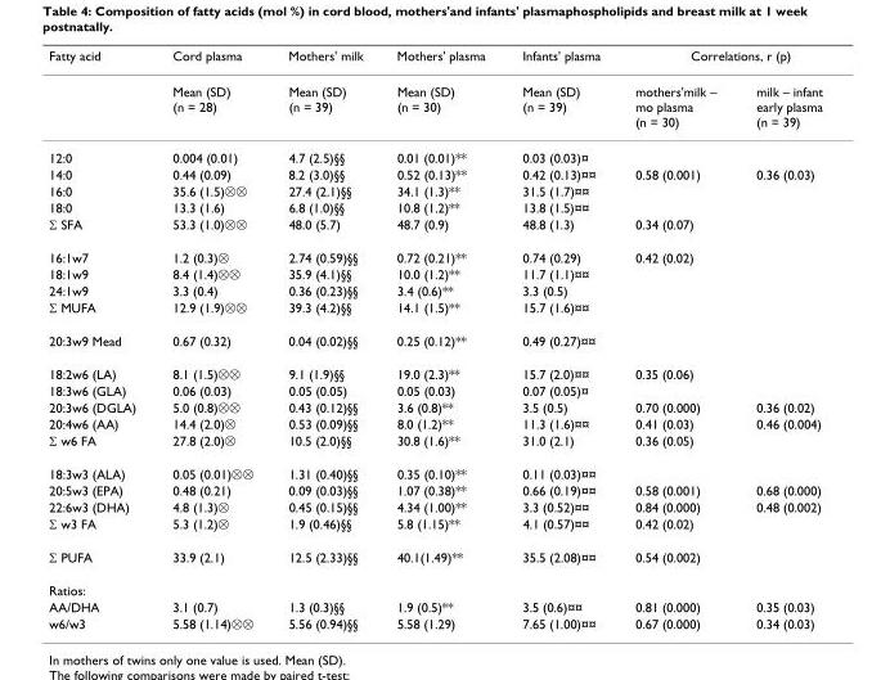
<table><thead><tr><td rowspan="2">Fatty acid</td><td rowspan="2">Cord plasma Mean (SD) (n = 28)</td><td rowspan="2">Mothers&#x27; milk Mean (SD) (n = 39)</td><td rowspan="2">Mothers&#x27; plasma Mean (SD) (n = 30)</td><td rowspan="2">Infants&#x27; plasma Mean (SD) (n = 39)</td><td colspan="2">Correlations, r (p)</td></tr><tr><td>mothers&#x27;milk – mo plasma (n = 30)</td><td>milk – infant early plasma (n = 39)</td></tr></thead><tbody><tr><td>12:0</td><td>0.004 (0.01)</td><td>4.7 (2.5)§§</td><td>0.01 (0.01)**</td><td>0.03 (0.03)¤</td><td></td><td></td></tr><tr><td>14:0</td><td>0.44 (0.09)</td><td>8.2 (3.0)§§</td><td>0.52 (0.13)**</td><td>0.42 (0.13)¤¤</td><td>0.58 (0.001)</td><td>0.36 (0.03)</td></tr><tr><td>16:0</td><td>35.6 (1.5)⊗⊗</td><td>27.4 (2.1)§§</td><td>34.1 (1.3)**</td><td>31.5 (1.7)¤¤</td><td></td><td></td></tr><tr><td>18:0</td><td>13.3 (1.6)</td><td>6.8 (1.0)§§</td><td>10.8 (1.2)**</td><td>13.8 (1.5)¤¤</td><td></td><td></td></tr><tr><td>Σ SFA</td><td>53.3 (1.0)⊗⊗</td><td>48.0 (5.7)</td><td>48.7 (0.9)</td><td>48.8 (1.3)</td><td>0.34 (0.07)</td><td></td></tr><tr><td>16:1w7</td><td>1.2 (0.3)⊗</td><td>2.74 (0.59)§§</td><td>0.72 (0.21)**</td><td>0.74 (0.29)</td><td>0.42 (0.02)</td><td></td></tr><tr><td>18:1w9</td><td>8.4 (1.4)⊗⊗</td><td>35.9 (4.1)§§</td><td>10.0 (1.2)**</td><td>11.7 (1.1)¤¤</td><td></td><td></td></tr><tr><td>24:1w9</td><td>3.3 (0.4)</td><td>0.36 (0.23)§§</td><td>3.4 (0.6)**</td><td>3.3 (0.5)</td><td></td><td></td></tr><tr><td>Σ MUFA</td><td>12.9 (1.9)⊗⊗</td><td>39.3 (4.2)§§</td><td>14.1 (1.5)**</td><td>15.7 (1.6)¤¤</td><td></td><td></td></tr><tr><td>20:3w9 Mead</td><td>0.67 (0.32)</td><td>0.04 (0.02)§§</td><td>0.25 (0.12)**</td><td>0.49 (0.27)¤¤</td><td></td><td></td></tr><tr><td>18:2w6 (LA)</td><td>8.1 (1.5)⊗⊗</td><td>9.1 (1.9)§§</td><td>19.0 (2.3)**</td><td>15.7 (2.0)¤¤</td><td>0.35 (0.06)</td><td></td></tr><tr><td>18:3w6 (GLA)</td><td>0.06 (0.03)</td><td>0.05 (0.05)</td><td>0.05 (0.03)</td><td>0.07 (0.05)¤</td><td></td><td></td></tr><tr><td>20:3w6 (DGLA)</td><td>5.0 (0.8)⊗⊗</td><td>0.43 (0.12)§§</td><td>3.6 (0.8)**</td><td>3.5 (0.5)</td><td>0.70 (0.000)</td><td>0.36 (0.02)</td></tr><tr><td>20:4w6 (AA)</td><td>14.4 (2.0)⊗</td><td>0.53 (0.09)§§</td><td>8.0 (1.2)**</td><td>11.3 (1.6)¤¤</td><td>0.41 (0.03)</td><td>0.46 (0.004)</td></tr><tr><td>Σ w6 FA</td><td>27.8 (2.0)⊗</td><td>10.5 (2.0)§§</td><td>30.8 (1.6)**</td><td>31.0 (2.1)</td><td>0.36 (0.05)</td><td></td></tr><tr><td>18:3w3 (ALA)</td><td>0.05 (0.01)⊗⊗</td><td>1.31 (0.40)§§</td><td>0.35 (0.10)**</td><td>0.11 (0.03)¤¤</td><td></td><td></td></tr><tr><td>20:5w3 (EPA)</td><td>0.48 (0.21)</td><td>0.09 (0.03)§§</td><td>1.07 (0.38)**</td><td>0.66 (0.19)¤¤</td><td>0.58 (0.001)</td><td>0.68 (0.000)</td></tr><tr><td>22:6w3 (DHA)</td><td>4.8 (1.3)⊗</td><td>0.45 (0.15)§§</td><td>4.34 (1.00)**</td><td>3.3 (0.52)¤¤</td><td>0.84 (0.000)</td><td>0.48 (0.002)</td></tr><tr><td>Σ w3 FA</td><td>5.3 (1.2)⊗</td><td>1.9 (0.46)§§</td><td>5.8 (1.15)**</td><td>4.1 (0.57)¤¤</td><td>0.42 (0.02)</td><td></td></tr><tr><td>Σ PUFA</td><td>33.9 (2.1)</td><td>12.5 (2.33)§§</td><td>40.1(1.49)**</td><td>35.5 (2.08)¤¤</td><td>0.54 (0.002)</td><td></td></tr><tr><td colspan="7">Ratios:</td></tr><tr><td>AA/DHA</td><td>3.1 (0.7)</td><td>1.3 (0.3)§§</td><td>1.9 (0.5)**</td><td>3.5 (0.6)¤¤</td><td>0.81 (0.000)</td><td>0.35 (0.03)</td></tr><tr><td>w6/w3</td><td>5.58 (1.14)⊗⊗</td><td>5.56 (0.94)§§</td><td>5.58 (1.29)</td><td>7.65 (1.00)¤¤</td><td>0.67 (0.000)</td><td>0.34 (0.03)</td></tr></tbody></table>